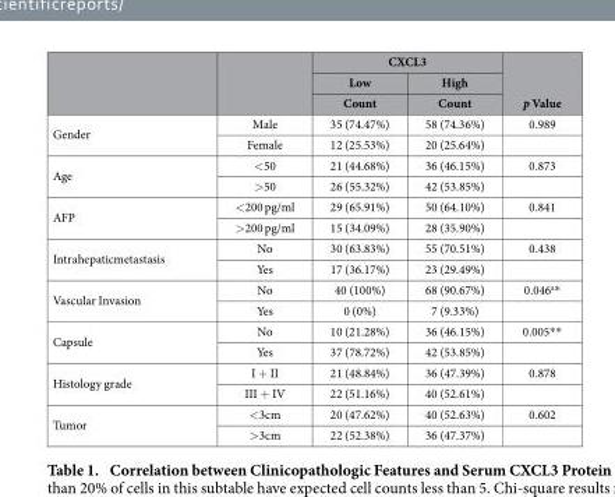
<table><thead><tr><td rowspan="3"></td><td rowspan="3"></td><td colspan="2">CXCL3</td><td rowspan="3">p Value</td></tr><tr><td rowspan="2">Low Count</td><td rowspan="2">High Count</td></tr><tr></tr></thead><tbody><tr><td rowspan="2">Gender</td><td>Male</td><td>35 (74.47%)</td><td>58 (74.36%)</td><td>0.989</td></tr><tr><td>Female</td><td>12 (25.53%)</td><td>20 (25.64%)</td><td></td></tr><tr><td rowspan="2">Age</td><td>&lt;50</td><td>21 (44.68%)</td><td>36 (46.15%)</td><td>0.873</td></tr><tr><td>&gt;50</td><td>26 (55.32%)</td><td>42 (53.85%)</td><td></td></tr><tr><td rowspan="2">AFP</td><td>&lt;200 pg/ml</td><td>29 (65.91%)</td><td>50 (64.10%)</td><td>0.841</td></tr><tr><td>&gt;200 pg/ml</td><td>15 (34.09%)</td><td>28 (35.90%)</td><td></td></tr><tr><td rowspan="2">Intrahepaticmetastasis</td><td>No</td><td>30 (63.83%)</td><td>55 (70.51%)</td><td>0.438</td></tr><tr><td>Yes</td><td>17 (36.17%)</td><td>23 (29.49%)</td><td></td></tr><tr><td rowspan="2">Vascular Invasion</td><td>No</td><td>40 (100%)</td><td>68 (90.67%)</td><td>0.046<sup>a</sup>*</td></tr><tr><td>Yes</td><td>0 (0%)</td><td>7 (9.33%)</td><td></td></tr><tr><td rowspan="2">Capsule</td><td>No</td><td>10 (21.28%)</td><td>36 (46.15%)</td><td>0.005* *</td></tr><tr><td>Yes</td><td>37 (78.72%)</td><td>42 (53.85%)</td><td></td></tr><tr><td rowspan="2">Histology grade</td><td>I + II</td><td>21 (48.84%)</td><td>36 (47.39%)</td><td>0.878</td></tr><tr><td>III + IV</td><td>22 (51.16%)</td><td>40 (52.61%)</td><td></td></tr><tr><td rowspan="2">Tumor</td><td>&lt;3cm</td><td>20 (47.62%)</td><td>40 (52.63%)</td><td>0.602</td></tr><tr><td>&gt;3cm</td><td>22 (52.38%)</td><td>36 (47.37%)</td><td></td></tr></tbody></table>